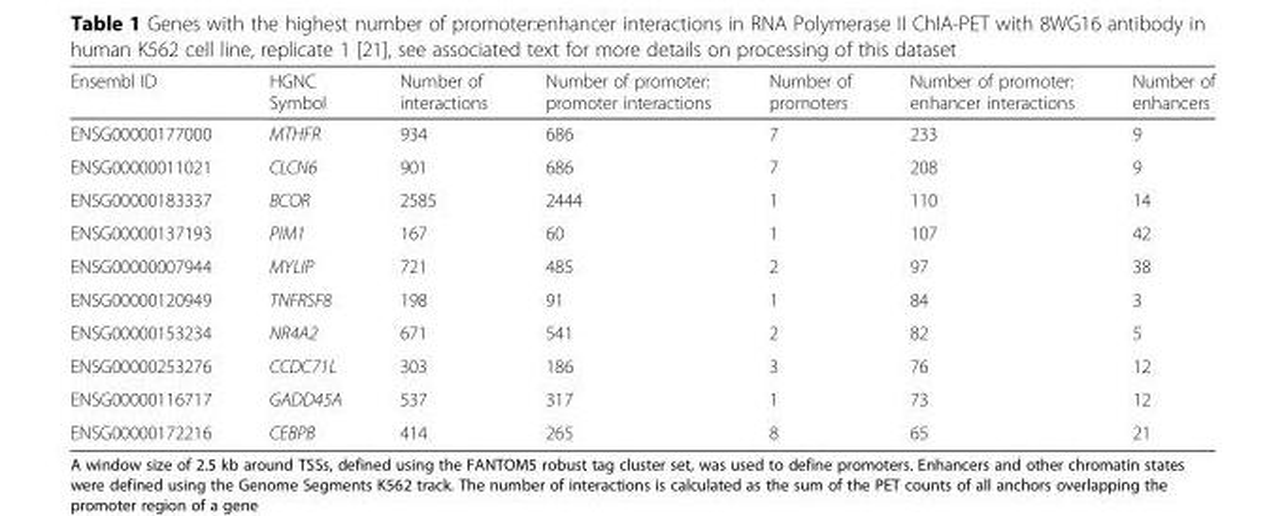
<table><thead><tr><td>Ensembl ID</td><td>HGNC Symbol</td><td>Number of interactions</td><td>Number of promoter: promoter interactions</td><td>Number of promoters</td><td>Number of promoter: enhancer interactions</td><td>Number of enhancers</td></tr></thead><tbody><tr><td>ENSG00000177000</td><td>MTHFR</td><td>934</td><td>686</td><td>7</td><td>233</td><td>9</td></tr><tr><td>ENSG00000011021</td><td>CLCN6</td><td>901</td><td>686</td><td>7</td><td>208</td><td>9</td></tr><tr><td>ENSG00000183337</td><td>BCOR</td><td>2585</td><td>2444</td><td>1</td><td>110</td><td>14</td></tr><tr><td>ENSG00000137193</td><td>PIM1</td><td>167</td><td>60</td><td>1</td><td>107</td><td>42</td></tr><tr><td>ENSG00000007944</td><td>MYLIP</td><td>721</td><td>485</td><td>2</td><td>97</td><td>38</td></tr><tr><td>ENSG00000120949</td><td>TNFRSF8</td><td>198</td><td>91</td><td>1</td><td>84</td><td>3</td></tr><tr><td>ENSG00000153234</td><td>NR4A2</td><td>671</td><td>541</td><td>2</td><td>82</td><td>5</td></tr><tr><td>ENSG00000253276</td><td>CCDC71L</td><td>303</td><td>186</td><td>3</td><td>76</td><td>12</td></tr><tr><td>ENSG00000116717</td><td>GADD45A</td><td>537</td><td>317</td><td>1</td><td>73</td><td>12</td></tr><tr><td>ENSG00000172216</td><td>CEBPB</td><td>414</td><td>265</td><td>8</td><td>65</td><td>21</td></tr></tbody></table>